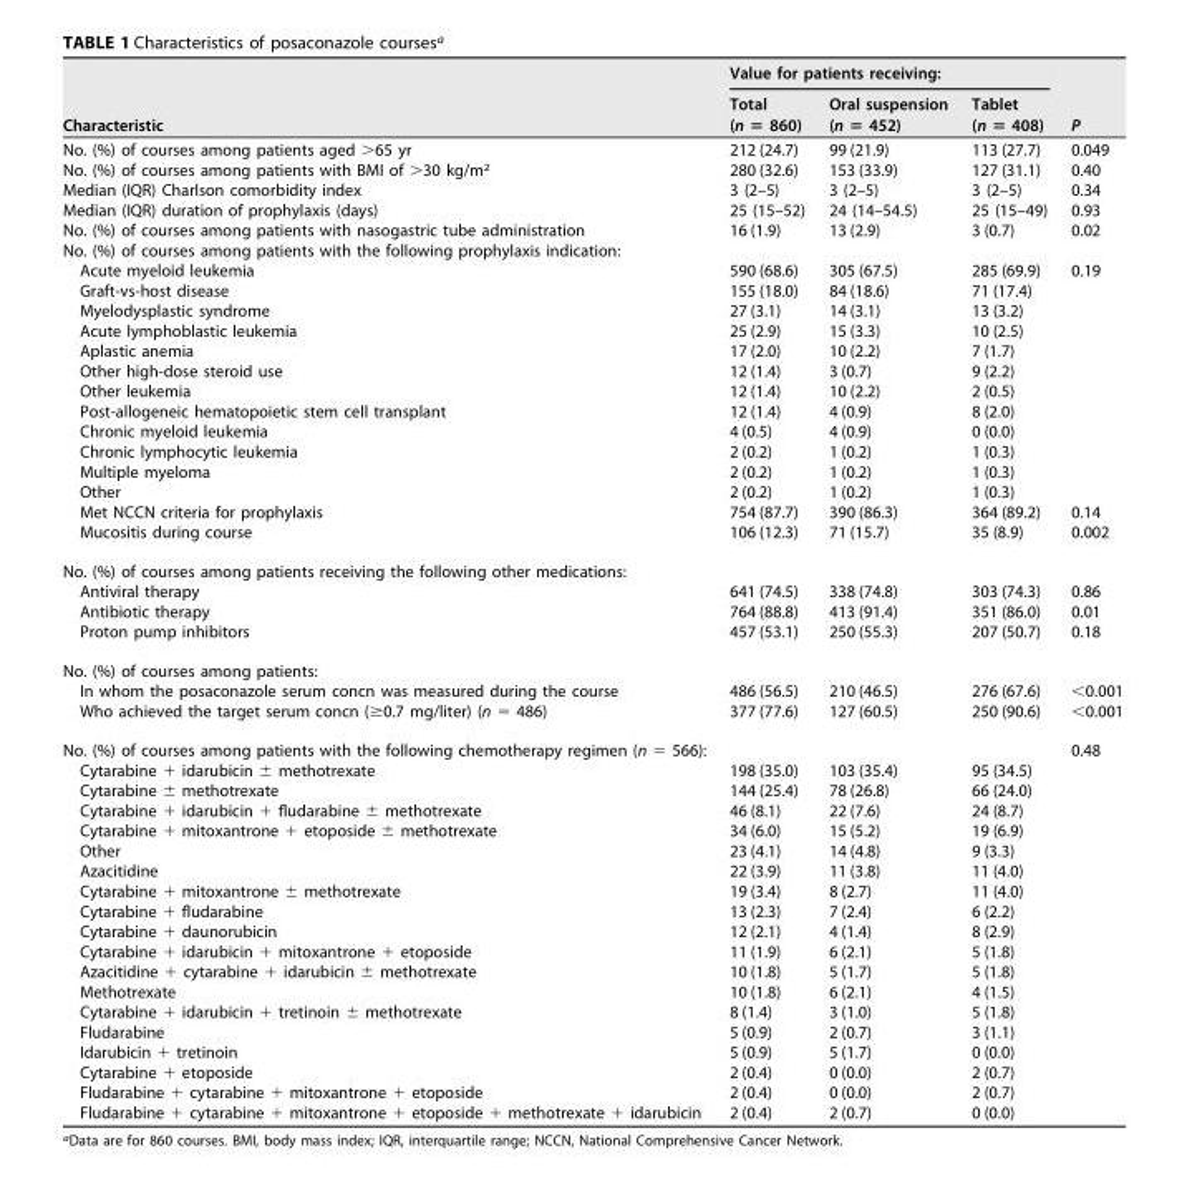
<table><thead><tr><td rowspan="2">Characteristic</td><td colspan="3">Value for patients receiving:</td><td rowspan="2">P</td></tr><tr><td>Total (n = 860)</td><td>Oral suspension (n = 452)</td><td>Tablet (n = 408)</td></tr></thead><tbody><tr><td>No. (%) of courses among patients aged &gt;65 yr</td><td>212 (24.7)</td><td>99 (21.9)</td><td>113 (27.7)</td><td>0.049</td></tr><tr><td>No. (%) of courses among patients with BMI of &gt;30 kg/m<sup>2</sup></td><td>280 (32.6)</td><td>153 (33.9)</td><td>127 (31.1)</td><td>0.40</td></tr><tr><td>Median (IQR) Charlson comorbidity index</td><td>3 (2–5)</td><td>3 (2–5)</td><td>3 (2–5)</td><td>0.34</td></tr><tr><td>Median (IQR) duration of prophylaxis (days)</td><td>25 (15–52)</td><td>24 (14–54.5)</td><td>25 (15–49)</td><td>0.93</td></tr><tr><td>No. (%) of courses among patients with nasogastric tube administration</td><td>16 (1.9)</td><td>13 (2.9)</td><td>3 (0.7)</td><td>0.02</td></tr><tr><td colspan="5">No. (%) of courses among patients with the following prophylaxis indication:</td></tr><tr><td>Acute myeloid leukemia</td><td>590 (68.6)</td><td>305 (67.5)</td><td>285 (69.9)</td><td>0.19</td></tr><tr><td>Graft-vs-host disease</td><td>155 (18.0)</td><td>84 (18.6)</td><td>71 (17.4)</td><td></td></tr><tr><td>Myelodysplastic syndrome</td><td>27 (3.1)</td><td>14 (3.1)</td><td>13 (3.2)</td><td></td></tr><tr><td>Acute lymphoblastic leukemia</td><td>25 (2.9)</td><td>15 (3.3)</td><td>10 (2.5)</td><td></td></tr><tr><td>Aplastic anemia</td><td>17 (2.0)</td><td>10 (2.2)</td><td>7 (1.7)</td><td></td></tr><tr><td>Other high-dose steroid use</td><td>12 (1.4)</td><td>3 (0.7)</td><td>9 (2.2)</td><td></td></tr><tr><td>Other leukemia</td><td>12 (1.4)</td><td>10 (2.2)</td><td>2 (0.5)</td><td></td></tr><tr><td>Post-allogeneic hematopoietic stem cell transplant</td><td>12 (1.4)</td><td>4 (0.9)</td><td>8 (2.0)</td><td></td></tr><tr><td>Chronic myeloid leukemia</td><td>4 (0.5)</td><td>4 (0.9)</td><td>0 (0.0)</td><td></td></tr><tr><td>Chronic lymphocytic leukemia</td><td>2 (0.2)</td><td>1 (0.2)</td><td>1 (0.3)</td><td></td></tr><tr><td>Multiple myeloma</td><td>2 (0.2)</td><td>1 (0.2)</td><td>1 (0.3)</td><td></td></tr><tr><td>Other</td><td>2 (0.2)</td><td>1 (0.2)</td><td>1 (0.3)</td><td></td></tr><tr><td>Met NCCN criteria for prophylaxis</td><td>754 (87.7)</td><td>390 (86.3)</td><td>364 (89.2)</td><td>0.14</td></tr><tr><td>Mucositis during course</td><td>106 (12.3)</td><td>71 (15.7)</td><td>35 (8.9)</td><td>0.002</td></tr><tr><td colspan="5">No. (%) of courses among patients receiving the following other medications:</td></tr><tr><td>Antiviral therapy</td><td>641 (74.5)</td><td>338 (74.8)</td><td>303 (74.3)</td><td>0.86</td></tr><tr><td>Antibiotic therapy</td><td>764 (88.8)</td><td>413 (91.4)</td><td>351 (86.0)</td><td>0.01</td></tr><tr><td>Proton pump inhibitors</td><td>457 (53.1)</td><td>250 (55.3)</td><td>207 (50.7)</td><td>0.18</td></tr><tr><td colspan="5">No. (%) of courses among patients:</td></tr><tr><td>In whom the posaconazole serum concn was measured during the course</td><td>486 (56.5)</td><td>210 (46.5)</td><td>276 (67.6)</td><td>&lt;0.001</td></tr><tr><td>Who achieved the target serum concn (≥0.7 mg/liter) (n = 486)</td><td>377 (77.6)</td><td>127 (60.5)</td><td>250 (90.6)</td><td>&lt;0.001</td></tr><tr><td>No. (%) of courses among patients with the following chemotherapy regimen (n = 566):</td><td></td><td></td><td></td><td>0.48</td></tr><tr><td>Cytarabine + idarubicin ± methotrexate</td><td>198 (35.0)</td><td>103 (35.4)</td><td>95 (34.5)</td><td></td></tr><tr><td>Cytarabine ± methotrexate</td><td>144 (25.4)</td><td>78 (26.8)</td><td>66 (24.0)</td><td></td></tr><tr><td>Cytarabine + idarubicin + fludarabine ± methotrexate</td><td>46 (8.1)</td><td>22 (7.6)</td><td>24 (8.7)</td><td></td></tr><tr><td>Cytarabine + mitoxantrone + etoposide ± methotrexate</td><td>34 (6.0)</td><td>15 (5.2)</td><td>19 (6.9)</td><td></td></tr><tr><td>Other</td><td>23 (4.1)</td><td>14 (4.8)</td><td>9 (3.3)</td><td></td></tr><tr><td>Azacitidine</td><td>22 (3.9)</td><td>11 (3.8)</td><td>11 (4.0)</td><td></td></tr><tr><td>Cytarabine + mitoxantrone ± methotrexate</td><td>19 (3.4)</td><td>8 (2.7)</td><td>11 (4.0)</td><td></td></tr><tr><td>Cytarabine + fludarabine</td><td>13 (2.3)</td><td>7 (2.4)</td><td>6 (2.2)</td><td></td></tr><tr><td>Cytarabine + daunorubicin</td><td>12 (2.1)</td><td>4 (1.4)</td><td>8 (2.9)</td><td></td></tr><tr><td>Cytarabine + idarubicin + mitoxantrone + etoposide</td><td>11 (1.9)</td><td>6 (2.1)</td><td>5 (1.8)</td><td></td></tr><tr><td>Azacitidine + cytarabine + idarubicin ± methotrexate</td><td>10 (1.8)</td><td>5 (1.7)</td><td>5 (1.8)</td><td></td></tr><tr><td>Methotrexate</td><td>10 (1.8)</td><td>6 (2.1)</td><td>4 (1.5)</td><td></td></tr><tr><td>Cytarabine + idarubicin + tretinoin ± methotrexate</td><td>8 (1.4)</td><td>3 (1.0)</td><td>5 (1.8)</td><td></td></tr><tr><td>Fludarabine</td><td>5 (0.9)</td><td>2 (0.7)</td><td>3 (1.1)</td><td></td></tr><tr><td>Idarubicin + tretinoin</td><td>5 (0.9)</td><td>5 (1.7)</td><td>0 (0.0)</td><td></td></tr><tr><td>Cytarabine + etoposide</td><td>2 (0.4)</td><td>0 (0.0)</td><td>2 (0.7)</td><td></td></tr><tr><td>Fludarabine + cytarabine + mitoxantrone + etoposide</td><td>2 (0.4)</td><td>0 (0.0)</td><td>2 (0.7)</td><td></td></tr><tr><td>Fludarabine + cytarabine + mitoxantrone + etoposide + methotrexate + idarubicin</td><td>2 (0.4)</td><td>2 (0.7)</td><td>0 (0.0)</td><td></td></tr></tbody></table>